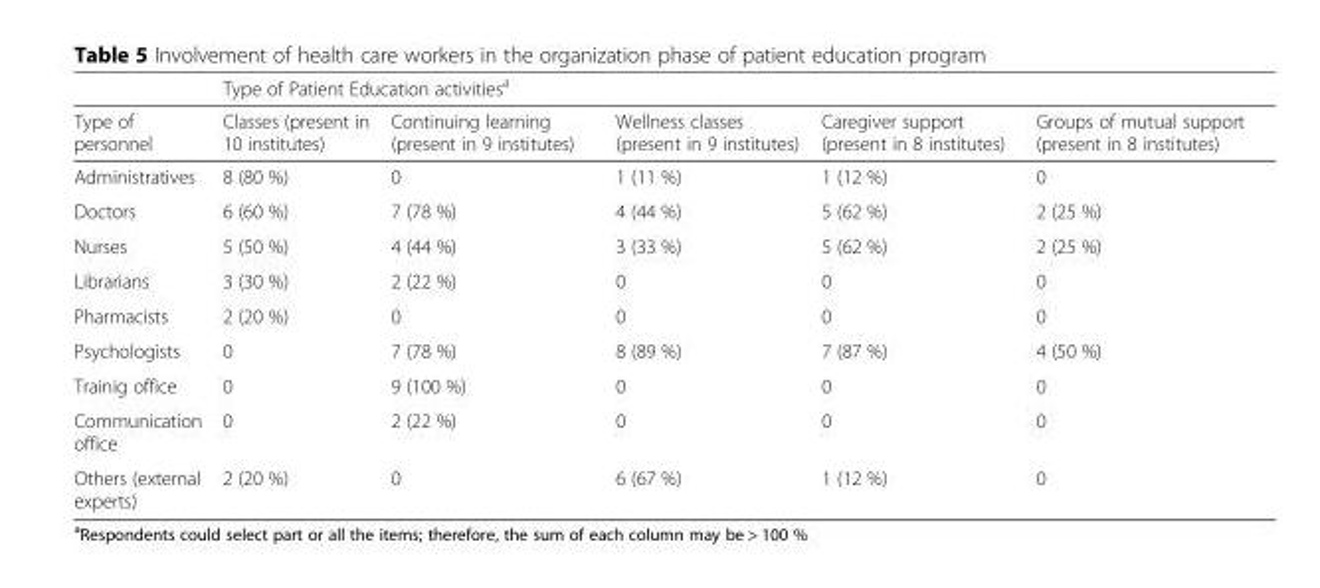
<table><thead><tr><td rowspan="2">Type of personnel</td><td colspan="5">Type of Patient Education activities<sup>a</sup></td></tr><tr><td>Classes (present in 10 institutes)</td><td>Continuing learning (present in 9 institutes)</td><td>Wellness classes (present in 9 institutes)</td><td>Caregiver support (present in 8 institutes)</td><td>Groups of mutual support (present in 8 institutes)</td></tr></thead><tbody><tr><td>Administratives</td><td>8 (80 %)</td><td>0</td><td>1 (11 %)</td><td>1 (12 %)</td><td>0</td></tr><tr><td>Doctors</td><td>6 (60 %)</td><td>7 (78 %)</td><td>4 (44 %)</td><td>5 (62 %)</td><td>2 (25 %)</td></tr><tr><td>Nurses</td><td>5 (50 %)</td><td>4 (44 %)</td><td>3 (33 %)</td><td>5 (62 %)</td><td>2 (25 %)</td></tr><tr><td>Librarians</td><td>3 (30 %)</td><td>2 (22 %)</td><td>0</td><td>0</td><td>0</td></tr><tr><td>Pharmacists</td><td>2 (20 %)</td><td>0</td><td>0</td><td>0</td><td>0</td></tr><tr><td>Psychologists</td><td>0</td><td>7 (78 %)</td><td>8 (89 %)</td><td>7 (87 %)</td><td>4 (50 %)</td></tr><tr><td>Trainig office</td><td>0</td><td>9 (100 %)</td><td>0</td><td>0</td><td>0</td></tr><tr><td>Communication office</td><td>0</td><td>2 (22 %)</td><td>0</td><td>0</td><td>0</td></tr><tr><td>Others (external experts)</td><td>2 (20 %)</td><td>0</td><td>6 (67 %)</td><td>1 (12 %)</td><td>0</td></tr></tbody></table>